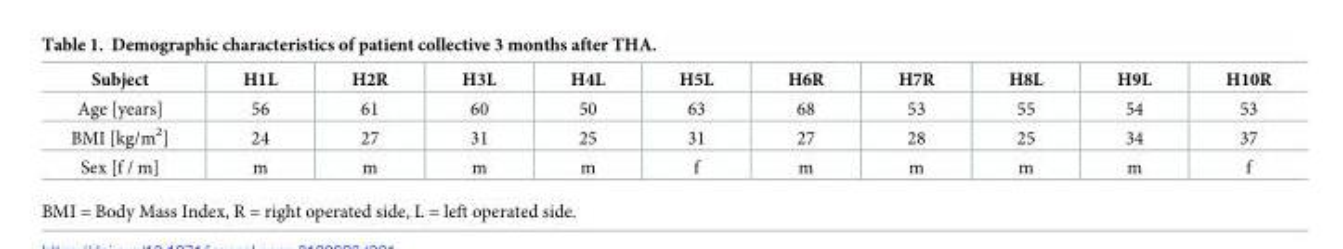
<table><thead><tr><td>Subject</td><td>H1L</td><td>H2R</td><td>H3L</td><td>H4L</td><td>H5L</td><td>H6R</td><td>H7R</td><td>H8L</td><td>H9L</td><td>H10R</td></tr></thead><tbody><tr><td>Age [years]</td><td>56</td><td>61</td><td>60</td><td>50</td><td>63</td><td>68</td><td>53</td><td>55</td><td>54</td><td>53</td></tr><tr><td>BMI [kg/m<sup>2</sup>]</td><td>24</td><td>27</td><td>31</td><td>25</td><td>31</td><td>27</td><td>28</td><td>25</td><td>34</td><td>37</td></tr><tr><td>Sex [f / m]</td><td>m</td><td>m</td><td>m</td><td>m</td><td>f</td><td>m</td><td>m</td><td>m</td><td>m</td><td>f</td></tr></tbody></table>